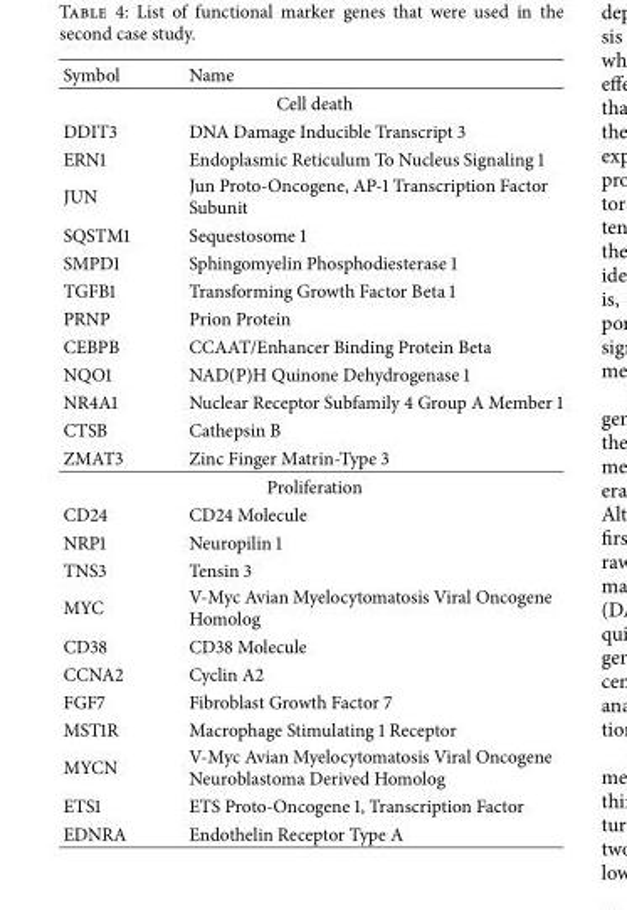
<table><thead><tr><td>Symbol</td><td>Name</td></tr></thead><tbody><tr><td colspan="2">Cell death</td></tr><tr><td>DDIT3</td><td>DNA Damage Inducible Transcript 3</td></tr><tr><td>ERN1</td><td>Endoplasmic Reticulum To Nucleus Signaling 1</td></tr><tr><td>JUN</td><td>Jun Proto-Oncogene, AP-1 Transcription Factor Subunit</td></tr><tr><td>SQSTM1</td><td>Sequestosome 1</td></tr><tr><td>SMPD1</td><td>Sphingomyelin Phosphodiesterase 1</td></tr><tr><td>TGFB1</td><td>Transforming Growth Factor Beta 1</td></tr><tr><td>PRNP</td><td>Prion Protein</td></tr><tr><td>CEBPB</td><td>CCAAT/Enhancer Binding Protein Beta</td></tr><tr><td>NQO1</td><td>NAD(P)H Quinone Dehydrogenase 1</td></tr><tr><td>NR4A1</td><td>Nuclear Receptor Subfamily 4 Group A Member 1</td></tr><tr><td>CTSB</td><td>Cathepsin B</td></tr><tr><td>ZMAT3</td><td>Zinc Finger Matrin-Type 3</td></tr><tr><td colspan="2">Proliferation</td></tr><tr><td>CD24</td><td>CD24 Molecule</td></tr><tr><td>NRP1</td><td>Neuropilin 1</td></tr><tr><td>TNS3</td><td>Tensin 3</td></tr><tr><td>MYC</td><td>V-Myc Avian Myelocytomatosis Viral Oncogene Homolog</td></tr><tr><td>CD38</td><td>CD38 Molecule</td></tr><tr><td>CCNA2</td><td>Cyclin A2</td></tr><tr><td>FGF7</td><td>Fibroblast Growth Factor 7</td></tr><tr><td>MST1R</td><td>Macrophage Stimulating 1 Receptor</td></tr><tr><td>MYCN</td><td>V-Myc Avian Myelocytomatosis Viral Oncogene Neuroblastoma Derived Homolog</td></tr><tr><td>ETS1</td><td>ETS Proto-Oncogene 1, Transcription Factor</td></tr><tr><td>EDNRA</td><td>Endothelin Receptor Type A</td></tr></tbody></table>